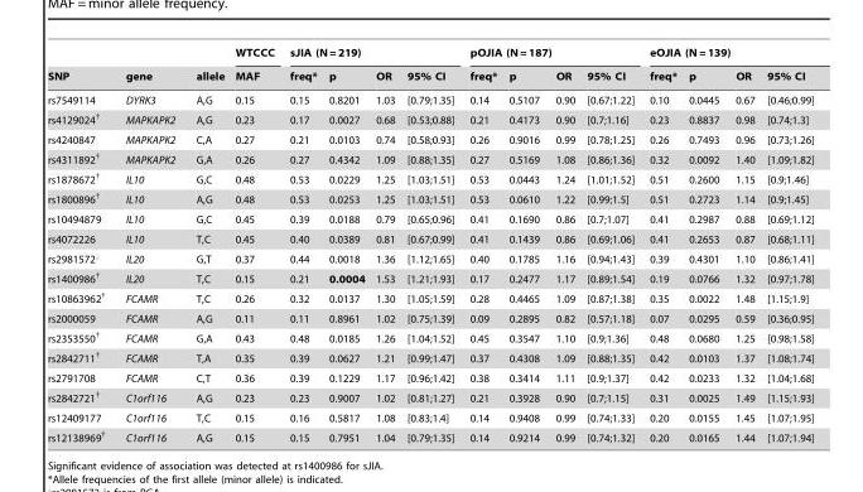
<table><thead><tr><td rowspan="2">SNP</td><td rowspan="2">gene</td><td rowspan="2">allele</td><td rowspan="2">WTCCC MAF</td><td colspan="4">sJIA (N = 219)</td><td colspan="4">pOJIA (N = 187)</td><td colspan="4">eOJIA (N = 139)</td></tr><tr><td>freq*</td><td>p</td><td>OR</td><td>95% CI</td><td>freq*</td><td>p</td><td>OR</td><td>95% CI</td><td>freq*</td><td>p</td><td>OR</td><td>95% CI</td></tr></thead><tbody><tr><td>rs7549114</td><td>DYRK3</td><td>A,G</td><td>0.15</td><td>0.15</td><td>0.8201</td><td>1.03</td><td>[0.79;1.35]</td><td>0.14</td><td>0.5107</td><td>0.90</td><td>[0.67;1.22]</td><td>0.10</td><td>0.0445</td><td>0.67</td><td>[0.46;0.99]</td></tr><tr><td>rs4129024†</td><td>MAPKAPK2</td><td>A,G</td><td>0.23</td><td>0.17</td><td>0.0027</td><td>0.68</td><td>[0.53;0.88]</td><td>0.21</td><td>0.4173</td><td>0.90</td><td>[0.7;1.16]</td><td>0.23</td><td>0.8837</td><td>0.98</td><td>[0.74;1.3]</td></tr><tr><td>rs4240847</td><td>MAPKAPK2</td><td>C,A</td><td>0.27</td><td>0.21</td><td>0.0103</td><td>0.74</td><td>[0.58;0.93]</td><td>0.26</td><td>0.9016</td><td>0.99</td><td>[0.78;1.25]</td><td>0.26</td><td>0.7493</td><td>0.96</td><td>[0.73;1.26]</td></tr><tr><td>rs4311892†</td><td>MAPKAPK2</td><td>G,A</td><td>0.26</td><td>0.27</td><td>0.4342</td><td>1.09</td><td>[0.88;1.35]</td><td>0.27</td><td>0.5169</td><td>1.08</td><td>[0.86;1.36]</td><td>0.32</td><td>0.0092</td><td>1.40</td><td>[1.09;1.82]</td></tr><tr><td>rs1878672†</td><td>IL10</td><td>G,C</td><td>0.48</td><td>0.53</td><td>0.0229</td><td>1.25</td><td>[1.03;1.51]</td><td>0.53</td><td>0.0443</td><td>1.24</td><td>[1.01;1.52]</td><td>0.51</td><td>0.2600</td><td>1.15</td><td>[0.9;1.46]</td></tr><tr><td>rs1800896†</td><td>IL10</td><td>A,G</td><td>0.48</td><td>0.53</td><td>0.0253</td><td>1.25</td><td>[1.03;1.51]</td><td>0.53</td><td>0.0610</td><td>1.22</td><td>[0.99;1.5]</td><td>0.51</td><td>0.2723</td><td>1.14</td><td>[0.9;1.45]</td></tr><tr><td>rs10494879</td><td>IL10</td><td>G,C</td><td>0.45</td><td>0.39</td><td>0.0188</td><td>0.79</td><td>[0.65;0.96]</td><td>0.41</td><td>0.1690</td><td>0.86</td><td>[0.7;1.07]</td><td>0.41</td><td>0.2987</td><td>0.88</td><td>[0.69;1.12]</td></tr><tr><td>rs4072226</td><td>IL10</td><td>T,C</td><td>0.45</td><td>0.40</td><td>0.0389</td><td>0.81</td><td>[0.67;0.99]</td><td>0.41</td><td>0.1439</td><td>0.86</td><td>[0.69;1.06]</td><td>0.41</td><td>0.2653</td><td>0.87</td><td>[0.68;1.11]</td></tr><tr><td>rs2981572‘</td><td>IL20</td><td>G,T</td><td>0.37</td><td>0.44</td><td>0.0018</td><td>1.36</td><td>[1.12;1.65]</td><td>0.40</td><td>0.1785</td><td>1.16</td><td>[0.94;1.43]</td><td>0.39</td><td>0.4301</td><td>1.10</td><td>[0.86;1.41]</td></tr><tr><td>rs1400986†</td><td>IL20</td><td>T,C</td><td>0.15</td><td>0.21</td><td>0.0004</td><td>1.53</td><td>[1.21;1.93]</td><td>0.17</td><td>0.2477</td><td>1.17</td><td>[0.89;1.54]</td><td>0.19</td><td>0.0766</td><td>1.32</td><td>[0.97;1.78]</td></tr><tr><td>rs10863962†</td><td>FCAMR</td><td>T,C</td><td>0.26</td><td>0.32</td><td>0.0137</td><td>1.30</td><td>[1.05;1.59]</td><td>0.28</td><td>0.4465</td><td>1.09</td><td>[0.87;1.38]</td><td>0.35</td><td>0.0022</td><td>1.48</td><td>[1.15;1.9]</td></tr><tr><td>rs2000059</td><td>FCAMR</td><td>A,G</td><td>0.11</td><td>0.11</td><td>0.8961</td><td>1.02</td><td>[0.75;1.39]</td><td>0.09</td><td>0.2895</td><td>0.82</td><td>[0.57;1.18]</td><td>0.07</td><td>0.0295</td><td>0.59</td><td>[0.36;0.95]</td></tr><tr><td>rs2353550†</td><td>FCAMR</td><td>G,A</td><td>0.43</td><td>0.48</td><td>0.0185</td><td>1.26</td><td>[1.04;1.52]</td><td>0.45</td><td>0.3547</td><td>1.10</td><td>[0.9;1.36]</td><td>0.48</td><td>0.0680</td><td>1.25</td><td>[0.98;1.58]</td></tr><tr><td>rs2842711†</td><td>FCAMR</td><td>T,A</td><td>0.35</td><td>0.39</td><td>0.0627</td><td>1.21</td><td>[0.99;1.47]</td><td>0.37</td><td>0.4308</td><td>1.09</td><td>[0.88;1.35]</td><td>0.42</td><td>0.0103</td><td>1.37</td><td>[1.08;1.74]</td></tr><tr><td>rs2791708</td><td>FCAMR</td><td>C,T</td><td>0.36</td><td>0.39</td><td>0.1229</td><td>1.17</td><td>[0.96;1.42]</td><td>0.38</td><td>0.3414</td><td>1.11</td><td>[0.9;1.37]</td><td>0.42</td><td>0.0233</td><td>1.32</td><td>[1.04;1.68]</td></tr><tr><td>rs2842721†</td><td>C1orf116</td><td>A,G</td><td>0.23</td><td>0.23</td><td>0.9007</td><td>1.02</td><td>[0.81;1.27]</td><td>0.21</td><td>0.3928</td><td>0.90</td><td>[0.7;1.15]</td><td>0.31</td><td>0.0025</td><td>1.49</td><td>[1.15;1.93]</td></tr><tr><td>rs12409177</td><td>C1orf116</td><td>T,C</td><td>0.15</td><td>0.16</td><td>0.5817</td><td>1.08</td><td>[0.83;1.4]</td><td>0.14</td><td>0.9408</td><td>0.99</td><td>[0.74;1.33]</td><td>0.20</td><td>0.0155</td><td>1.45</td><td>[1.07;1.95]</td></tr><tr><td>rs12138969†</td><td>C1orf116</td><td>A,G</td><td>0.15</td><td>0.15</td><td>0.7951</td><td>1.04</td><td>[0.79;1.35]</td><td>0.14</td><td>0.9214</td><td>0.99</td><td>[0.74;1.32]</td><td>0.20</td><td>0.0165</td><td>1.44</td><td>[1.07;1.94]</td></tr></tbody></table>